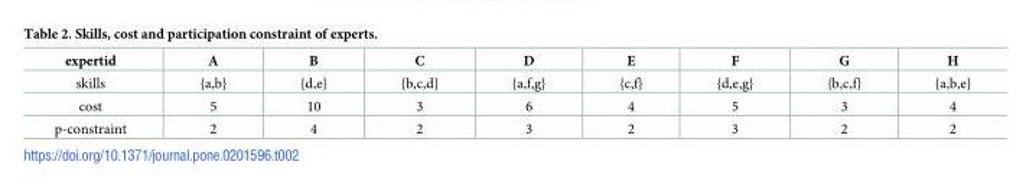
<table><thead><tr><td>expertid</td><td>A</td><td>B</td><td>C</td><td>D</td><td>E</td><td>F</td><td>G</td><td>H</td></tr></thead><tbody><tr><td>skills</td><td>{a,b}</td><td>{d,e}</td><td>{b,c,d}</td><td>{a,f,g}</td><td>{c,f}</td><td>{d,e,g}</td><td>{b,c,f}</td><td>{a,b,e}</td></tr><tr><td>cost</td><td>5</td><td>10</td><td>3</td><td>6</td><td>4</td><td>5</td><td>3</td><td>4</td></tr><tr><td>p-constraint</td><td>2</td><td>4</td><td>2</td><td>3</td><td>2</td><td>3</td><td>2</td><td>2</td></tr></tbody></table>